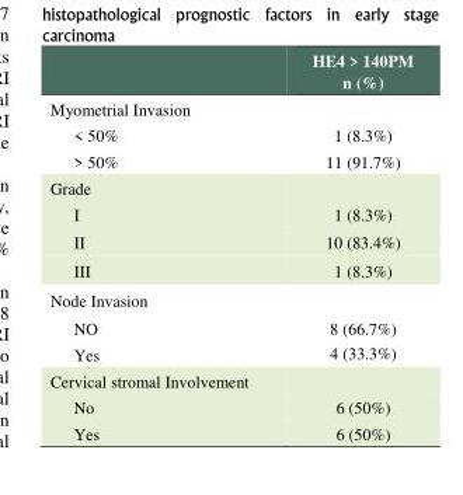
<table><thead><tr><td></td><td>HE4 &gt; 140PM n (%)</td></tr></thead><tbody><tr><td colspan="2">Myometrial Invasion</td></tr><tr><td>&lt; 50%</td><td>1 (8.3%)</td></tr><tr><td>&gt; 50%</td><td>11 (91.7%)</td></tr><tr><td colspan="2">Grade</td></tr><tr><td>I</td><td>1 (8.3%)</td></tr><tr><td>II</td><td>10 (83.4%)</td></tr><tr><td>III</td><td>1 (8.3%)</td></tr><tr><td colspan="2">Node Invasion</td></tr><tr><td>NO</td><td>8 (66.7%)</td></tr><tr><td>Yes</td><td>4 (33.3%)</td></tr><tr><td colspan="2">Cervical stromal Involvement</td></tr><tr><td>No</td><td>6 (50%)</td></tr><tr><td>Yes</td><td>6 (50%)</td></tr></tbody></table>